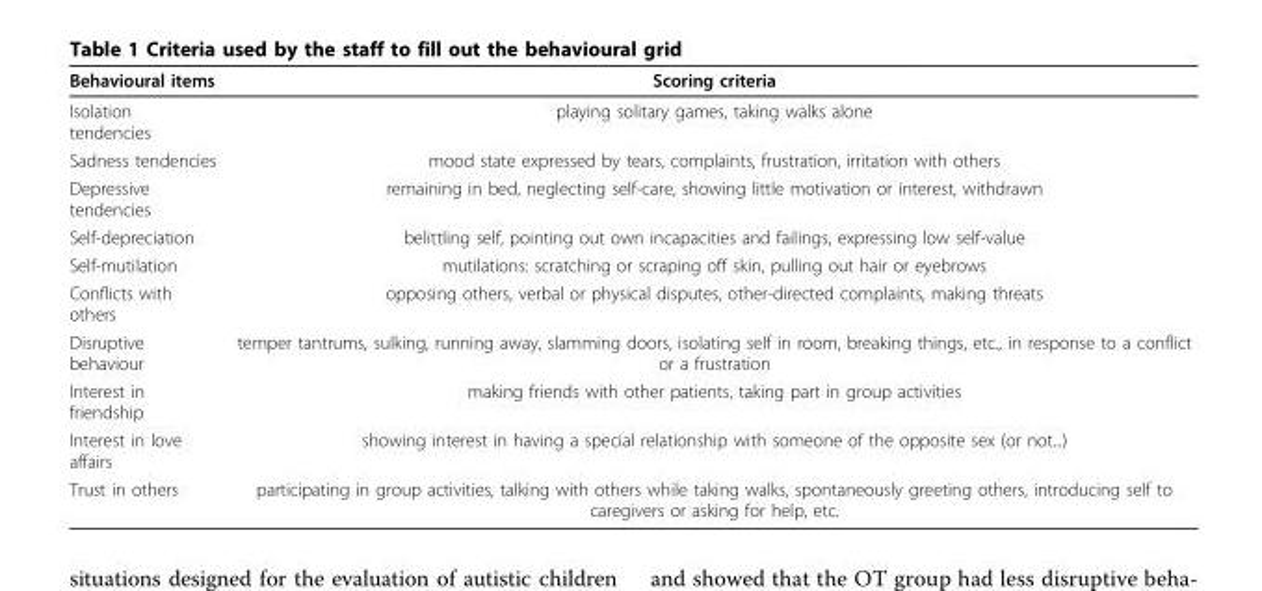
<table><thead><tr><td>Behavioural items</td><td>Scoring criteria</td></tr></thead><tbody><tr><td>Isolation tendencies</td><td>playing solitary games, taking walks alone</td></tr><tr><td>Sadness tendencies</td><td>mood state expressed by tears, complaints, frustration, irritation with others</td></tr><tr><td>Depressive tendencies</td><td>remaining in bed, neglecting self-care, showing little motivation or interest, withdrawn</td></tr><tr><td>Self-depreciation</td><td>belittling self, pointing out own incapacities and failings, expressing low self-value</td></tr><tr><td>Self-mutilation</td><td>mutilations: scratching or scraping off skin, pulling out hair or eyebrows</td></tr><tr><td>Conflicts with others</td><td>opposing others, verbal or physical disputes, other-directed complaints, making threats</td></tr><tr><td>Disruptive behaviour</td><td>temper tantrums, sulking, running away, slamming doors, isolating self in room, breaking things, etc., in response to a conflict or a frustration</td></tr><tr><td>Interest in friendship</td><td>making friends with other patients, taking part in group activities</td></tr><tr><td>Interest in love affairs</td><td>showing interest in having a special relationship with someone of the opposite sex (or not...)</td></tr><tr><td>Trust in others</td><td>participating in group activities, talking with others while taking walks, spontaneously greeting others, introducing self to caregivers or asking for help, etc.</td></tr></tbody></table>